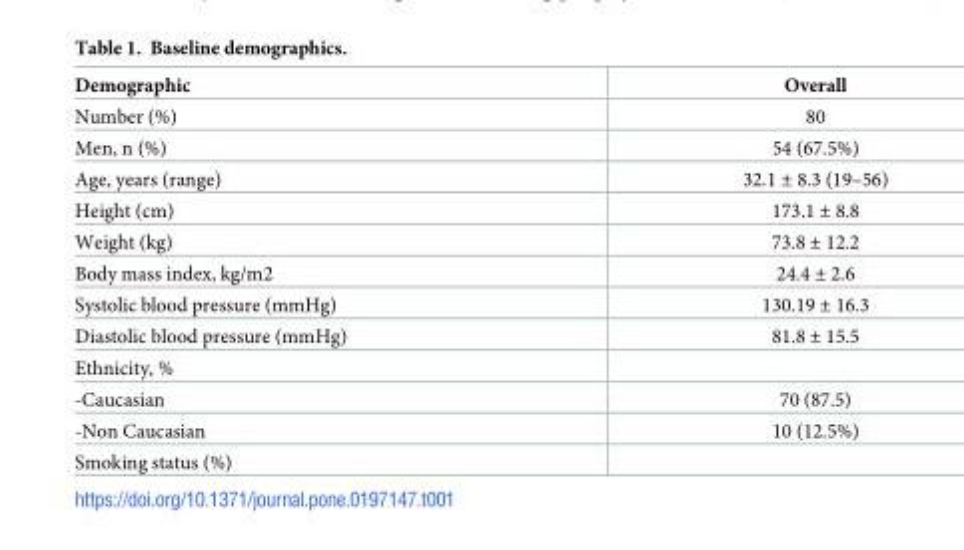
<table><thead><tr><td>Demographic</td><td>Overall</td></tr></thead><tbody><tr><td>Number (%)</td><td>80</td></tr><tr><td>Men, n (%)</td><td>54 (67.5%)</td></tr><tr><td>Age, years (range)</td><td>32.1 ± 8.3 (19–56)</td></tr><tr><td>Height (cm)</td><td>173.1 ± 8.8</td></tr><tr><td>Weight (kg)</td><td>73.8 ± 12.2</td></tr><tr><td>Body mass index, kg/m2</td><td>24.4 ± 2.6</td></tr><tr><td>Systolic blood pressure (mmHg)</td><td>130.19 ± 16.3</td></tr><tr><td>Diastolic blood pressure (mmHg)</td><td>81.8 ± 15.5</td></tr><tr><td colspan="2">Ethnicity, %</td></tr><tr><td>-Caucasian</td><td>70 (87.5)</td></tr><tr><td>-Non Caucasian</td><td>10 (12.5%)</td></tr><tr><td>Smoking status (%)</td><td></td></tr></tbody></table>